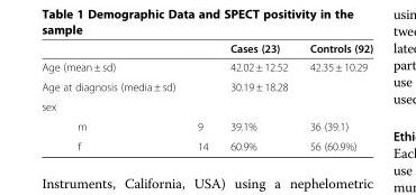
<table><thead><tr><td></td><td></td><td>Cases (23)</td><td>Controls (92)</td></tr></thead><tbody><tr><td>Age (mean ± sd)</td><td></td><td>42.02 ± 12.52</td><td>42.35 ± 10.29</td></tr><tr><td>Age at diagnosis (media ± sd)</td><td></td><td>30.19 ± 18.28</td><td></td></tr><tr><td colspan="4">sex</td></tr><tr><td>m</td><td>9</td><td>39.1%</td><td>36 (39.1)</td></tr><tr><td>f</td><td>14</td><td>60.9%</td><td>56 (60.9%)</td></tr></tbody></table>